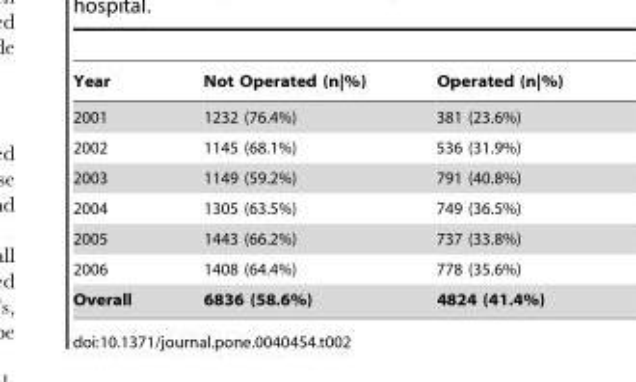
<table><thead><tr><td>Year</td><td>Not Operated (n|%)</td><td>Operated (n|%)</td></tr></thead><tbody><tr><td>2001</td><td>1232 (76.4%)</td><td>381 (23.6%)</td></tr><tr><td>2002</td><td>1145 (68.1%)</td><td>536 (31.9%)</td></tr><tr><td>2003</td><td>1149 (59.2%)</td><td>791 (40.8%)</td></tr><tr><td>2004</td><td>1305 (63.5%)</td><td>749 (36.5%)</td></tr><tr><td>2005</td><td>1443 (66.2%)</td><td>737 (33.8%)</td></tr><tr><td>2006</td><td>1408 (64.4%)</td><td>778 (35.6%)</td></tr><tr><td>Overall</td><td>6836 (58.6%)</td><td>4824 (41.4%)</td></tr></tbody></table>